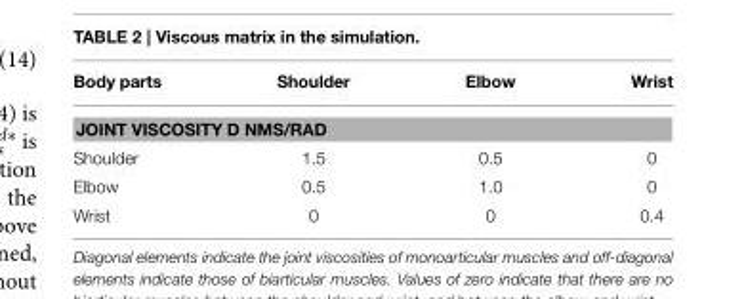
<table><thead><tr><td>Body parts</td><td>Shoulder</td><td>Elbow</td><td>Wrist</td></tr></thead><tbody><tr><td colspan="4">JOINT VISCOSITY D NMS/RAD</td></tr><tr><td>Shoulder</td><td>1.5</td><td>0.5</td><td>0</td></tr><tr><td>Elbow</td><td>0.5</td><td>1.0</td><td>0</td></tr><tr><td>Wrist</td><td>0</td><td>0</td><td>0.4</td></tr></tbody></table>